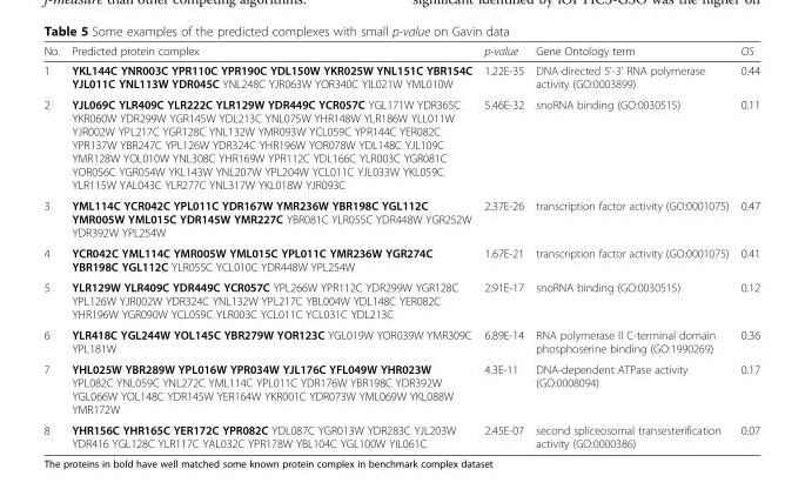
<table><thead><tr><td>No.</td><td>Predicted protein complex</td><td>p-value</td><td>Gene Ontology term</td><td>OS</td></tr></thead><tbody><tr><td>1</td><td>YKL144C YNR003C YPR110C YPR190C YDL150W YKR025W YNL151C YBR154C YJL011C YNL113W YDR045C YNL248C YJR063W YOR340C YIL021W YML010W</td><td>1.22E-35</td><td>DNA-directed 5&#x27;-3&#x27; RNA polymerase activity (GO:0003899)</td><td>0.44</td></tr><tr><td>2</td><td>YJL069C YLR409C YLR222C YLR129W YDR449C YCR057C YGL171W YDR365C YKR060W YDR299W YGR145W YDL213C YNL075W YHR148W YLR186W YLL011W YJR002W YPL217C YGR128C YNL132W YMR093W YCL059C YPR144C YER082C YPR137W YBR247C YPL126W YDR324C YHR196W YOR078W YDL148C YJL109C YMR128W YOL010W YNL308C YHR169W YPR112C YDL166C YLR003C YGR081C YOR056C YGR054W YKL143W YNL207W YPL204W YCL011C YJL033W YKL059C YLR115W YAL043C YLR277C YNL317W YKL018W YJR093C</td><td>5.46E-32</td><td>snoRNA binding (GO:0030515)</td><td>0.11</td></tr><tr><td>3</td><td>YML114C YCR042C YPL011C YDR167W YMR236W YBR198C YGL112C YMR005W YML015C YDR145W YMR227C YBR081C YLR055C YDR448W YGR252W YDR392W YPL254W</td><td>2.37E-26</td><td>transcription factor activity (GO:0001075)</td><td>0.47</td></tr><tr><td>4</td><td>YCR042C YML114C YMR005W YML015C YPL011C YMR236W YGR274C YBR198C YGL112C YLR055C YCL010C YDR448W YPL254W</td><td>1.67E-21</td><td>transcription factor activity (GO:0001075)</td><td>0.41</td></tr><tr><td>5</td><td>YLR129W YLR409C YDR449C YCR057C YPL266W YPR112C YDR299W YGR128C YPL126W YJR002W YDR324C YNL132W YPL217C YBL004W YDL148C YER082C YHR196W YGR090W YCL059C YLR003C YCL011C YCL031C YDL213C</td><td>2.91E-17</td><td>snoRNA binding (GO:0030515)</td><td>0.12</td></tr><tr><td>6</td><td>YLR418C YGL244W YOL145C YBR279W YOR123C YGL019W YOR039W YMR309C YPL181W</td><td>6.89E-14</td><td>RNA polymerase II C-terminal domain phosphoserine binding (GO:1990269)</td><td>0.36</td></tr><tr><td>7</td><td>YHL025W YBR289W YPL016W YPR034W YJL176C YFL049W YHR023W YPL082C YNL059C YNL272C YML114C YPL011C YDR176W YBR198C YDR392W YGL066W YOL148C YDR145W YER164W YKR001C YDR073W YML069W YKL088W YMR172W</td><td>4.3E-11</td><td>DNA-dependent ATPase activity (GO:0008094)</td><td>0.17</td></tr><tr><td>8</td><td>YHR156C YHR165C YER172C YPR082C YDL087C YGR013W YDR283C YJL203W YDR416 YGL128C YLR117C YAL032C YPR178W YBL104C YGL100W YIL061C</td><td>2.45E-07</td><td>second spliceosomal transesterification activity (GO:0000386)</td><td>0.07</td></tr></tbody></table>